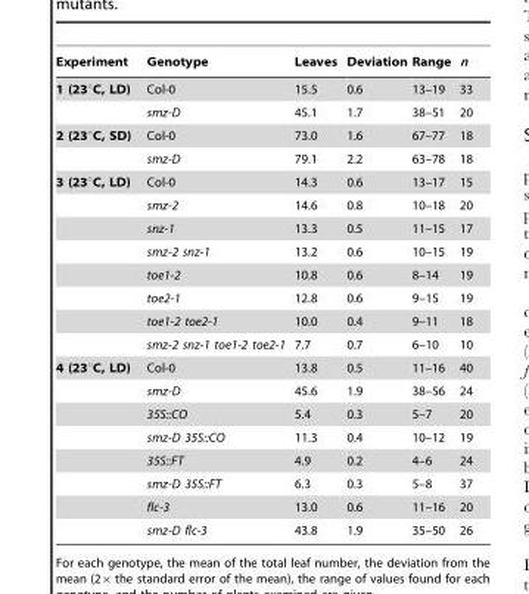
<table><thead><tr><td>Experiment</td><td>Genotype</td><td>Leaves</td><td>Deviation</td><td>Range</td><td>n</td></tr></thead><tbody><tr><td rowspan="2">1 (23°C, LD)</td><td>Col-0</td><td>15.5</td><td>0.6</td><td>13–19</td><td>33</td></tr><tr><td>smz-D</td><td>45.1</td><td>1.7</td><td>38–51</td><td>20</td></tr><tr><td rowspan="2">2 (23°C, SD)</td><td>Col-0</td><td>73.0</td><td>1.6</td><td>67–77</td><td>18</td></tr><tr><td>smz-D</td><td>79.1</td><td>2.2</td><td>63–78</td><td>18</td></tr><tr><td rowspan="8">3 (23°C, LD)</td><td>Col-0</td><td>14.3</td><td>0.6</td><td>13–17</td><td>15</td></tr><tr><td>smz-2</td><td>14.6</td><td>0.8</td><td>10–18</td><td>20</td></tr><tr><td>snz-1</td><td>13.3</td><td>0.5</td><td>11–15</td><td>17</td></tr><tr><td>smz-2 snz-1</td><td>13.2</td><td>0.6</td><td>10–15</td><td>19</td></tr><tr><td>toe1-2</td><td>10.8</td><td>0.6</td><td>8–14</td><td>19</td></tr><tr><td>toe2-1</td><td>12.8</td><td>0.6</td><td>9–15</td><td>19</td></tr><tr><td>toe1-2 toe2-1</td><td>10.0</td><td>0.4</td><td>9–11</td><td>18</td></tr><tr><td>smz-2 snz-1 toe1-2 toe2-1</td><td>7.7</td><td>0.7</td><td>6–10</td><td>10</td></tr><tr><td rowspan="8">4 (23°C, LD)</td><td>Col-0</td><td>13.8</td><td>0.5</td><td>11–16</td><td>40</td></tr><tr><td>smz-D</td><td>45.6</td><td>1.9</td><td>38–56</td><td>24</td></tr><tr><td>35S::CO</td><td>5.4</td><td>0.3</td><td>5–7</td><td>20</td></tr><tr><td>smz-D 35S::CO</td><td>11.3</td><td>0.4</td><td>10–12</td><td>19</td></tr><tr><td>35S::FT</td><td>4.9</td><td>0.2</td><td>4–6</td><td>24</td></tr><tr><td>smz-D 35S::FT</td><td>6.3</td><td>0.3</td><td>5–8</td><td>37</td></tr><tr><td>flc-3</td><td>13.0</td><td>0.6</td><td>11–16</td><td>20</td></tr><tr><td>smz-D flc-3</td><td>43.8</td><td>1.9</td><td>35–50</td><td>26</td></tr></tbody></table>